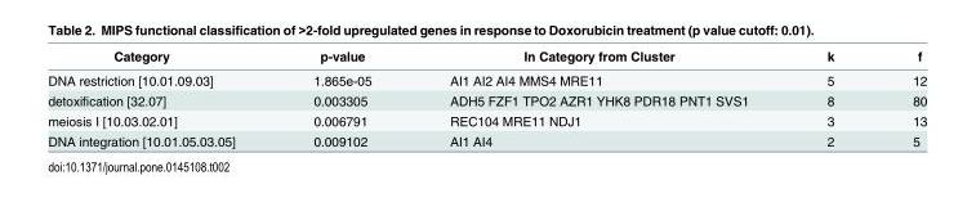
<table><thead><tr><td>Category</td><td>p-value</td><td>In Category from Cluster</td><td>k</td><td>f</td></tr></thead><tbody><tr><td>DNA restriction [10.01.09.03]</td><td>1.865e-05</td><td>AI1 AI2 AI4 MMS4 MRE11</td><td>5</td><td>12</td></tr><tr><td>detoxification [32.07]</td><td>0.003305</td><td>ADH5 FZF1 TPO2 AZR1 YHK8 PDR18 PNT1 SVS1</td><td>8</td><td>80</td></tr><tr><td>meiosis I [10.03.02.01]</td><td>0.006791</td><td>REC104 MRE11 NDJ1</td><td>3</td><td>13</td></tr><tr><td>DNA integration [10.01.05.03.05]</td><td>0.009102</td><td>AI1 AI4</td><td>2</td><td>5</td></tr></tbody></table>